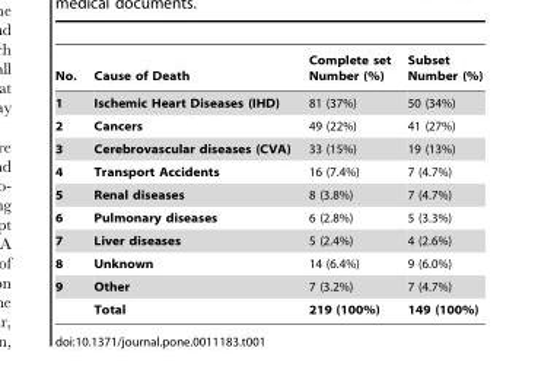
<table><thead><tr><td>No.</td><td>Cause of Death</td><td>Complete set Number (%)</td><td>Subset Number (%)</td></tr></thead><tbody><tr><td>1</td><td>Ischemic Heart Diseases (IHD)</td><td>81 (37%)</td><td>50 (34%)</td></tr><tr><td>2</td><td>Cancers</td><td>49 (22%)</td><td>41 (27%)</td></tr><tr><td>3</td><td>Cerebrovascular diseases (CVA)</td><td>33 (15%)</td><td>19 (13%)</td></tr><tr><td>4</td><td>Transport Accidents</td><td>16 (7.4%)</td><td>7 (4.7%)</td></tr><tr><td>5</td><td>Renal diseases</td><td>8 (3.8%)</td><td>7 (4.7%)</td></tr><tr><td>6</td><td>Pulmonary diseases</td><td>6 (2.8%)</td><td>5 (3.3%)</td></tr><tr><td>7</td><td>Liver diseases</td><td>5 (2.4%)</td><td>4 (2.6%)</td></tr><tr><td>8</td><td>Unknown</td><td>14 (6.4%)</td><td>9 (6.0%)</td></tr><tr><td rowspan="2">9</td><td>Other</td><td>7 (3.2%)</td><td>7 (4.7%)</td></tr><tr><td>Total</td><td>219 (100%)</td><td>149 (100%)</td></tr></tbody></table>